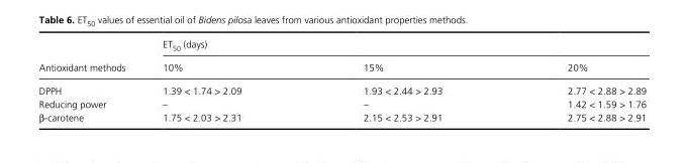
<table><thead><tr><td rowspan="2">Antioxidant methods</td><td colspan="3">ET<sub>50</sub> (days)</td></tr><tr><td>10%</td><td>15%</td><td>20%</td></tr></thead><tbody><tr><td>DPPH</td><td>1.39 &lt; 1.74 &gt; 2.09</td><td>1.93 &lt; 2.44 &gt; 2.93</td><td>2.77 &lt; 2.88 &gt; 2.89</td></tr><tr><td>Reducing power</td><td>–</td><td>–</td><td>1.42 &lt; 1.59 &gt; 1.76</td></tr><tr><td>β- carotene</td><td>1.75 &lt; 2.03 &gt; 2.31</td><td>2.15 &lt; 2.53 &gt; 2.91</td><td>2.75 &lt; 2.88 &gt; 2.91</td></tr></tbody></table>